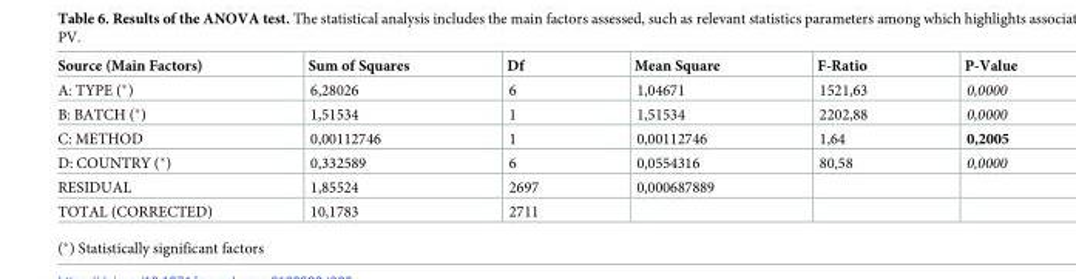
<table><thead><tr><td>Source (Main Factors)</td><td>Sum of Squares</td><td>Df</td><td>Mean Square</td><td>F-Ratio</td><td>P-Value</td></tr></thead><tbody><tr><td>A: TYPE (*)</td><td>6,28026</td><td>6</td><td>1,04671</td><td>1521,63</td><td>0,0000</td></tr><tr><td>B: BATCH (*)</td><td>1,51534</td><td>1</td><td>1,51534</td><td>2202,88</td><td>0,0000</td></tr><tr><td>C: METHOD</td><td>0,00112746</td><td>1</td><td>0,00112746</td><td>1,64</td><td>0,2005</td></tr><tr><td>D: COUNTRY (*)</td><td>0,332589</td><td>6</td><td>0,0554316</td><td>80,58</td><td>0,0000</td></tr><tr><td>RESIDUAL</td><td>1,85524</td><td>2697</td><td>0,000687889</td><td></td><td></td></tr><tr><td>TOTAL (CORRECTED)</td><td>10,1783</td><td>2711</td><td></td><td></td><td></td></tr></tbody></table>